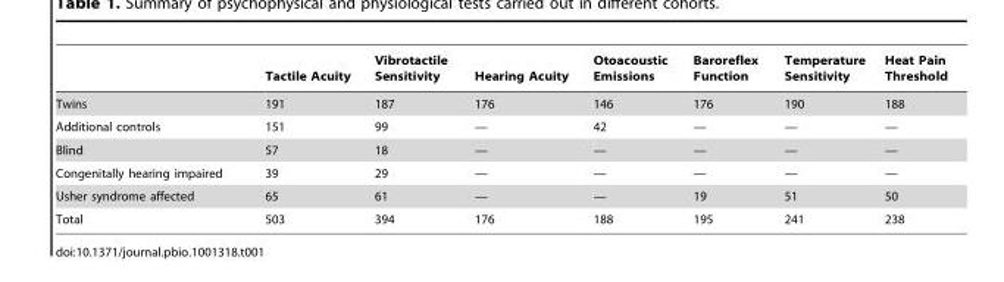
<table><thead><tr><td></td><td>Tactile Acuity</td><td>Vibrotactile Sensitivity</td><td>Hearing Acuity</td><td>Otoacoustic Emissions</td><td>Baroreflex Function</td><td>Temperature Sensitivity</td><td>Heat Pain Threshold</td></tr></thead><tbody><tr><td>Twins</td><td>191</td><td>187</td><td>176</td><td>146</td><td>176</td><td>190</td><td>188</td></tr><tr><td>Additional controls</td><td>151</td><td>99</td><td>—</td><td>42</td><td>—</td><td>—</td><td>—</td></tr><tr><td>Blind</td><td>57</td><td>18</td><td>—</td><td>—</td><td>—</td><td>—</td><td>—</td></tr><tr><td>Congenitally hearing impaired</td><td>39</td><td>29</td><td>—</td><td>—</td><td>—</td><td>—</td><td>—</td></tr><tr><td>Usher syndrome affected</td><td>65</td><td>61</td><td>—</td><td>—</td><td>19</td><td>51</td><td>50</td></tr><tr><td>Total</td><td>503</td><td>394</td><td>176</td><td>188</td><td>195</td><td>241</td><td>238</td></tr></tbody></table>